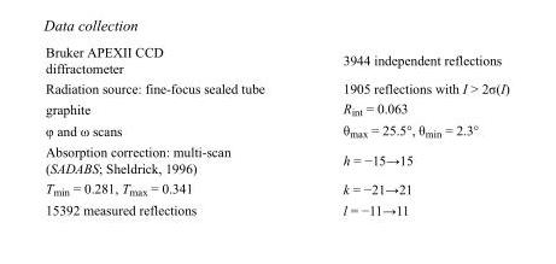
<table><tbody><tr><td>Bruker APEXII CCD diffractometer</td><td>3944 independent reflections</td></tr><tr><td>Radiation source: fine-focus sealed tube</td><td>1905 reflections with I &gt; 2σ(I)</td></tr><tr><td>graphite</td><td>R<sub>int</sub> = 0.063</td></tr><tr><td>φ and ω scans</td><td>θ<sub>max</sub> = 25.5°, θ<sub>min</sub> = 2.3°</td></tr><tr><td>Absorption correction: multi-scan (SADABS; Sheldrick, 1996)</td><td>h = −15→15</td></tr><tr><td>T<sub>min</sub> = 0.281, T<sub>max</sub> = 0.341</td><td>k = −21→21</td></tr><tr><td>15392 measured reflections</td><td>l = −11→11</td></tr></tbody></table>